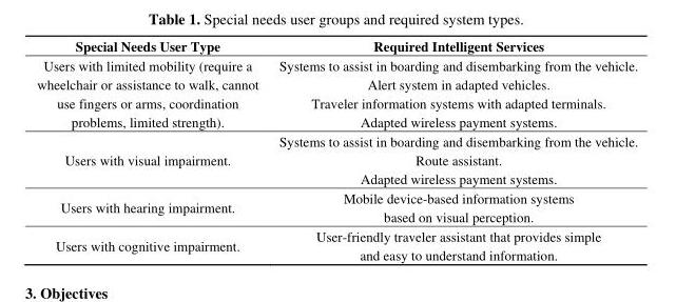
<table><thead><tr><td>Special Needs User Type</td><td>Required Intelligent Services</td></tr></thead><tbody><tr><td rowspan="4">Users with limited mobility (require a wheelchair or assistance to walk, cannot use fingers or arms, coordination problems, limited strength).</td><td>Systems to assist in boarding and disembarking from the vehicle.</td></tr><tr><td>Alert system in adapted vehicles.</td></tr><tr><td>Traveler information systems with adapted terminals.</td></tr><tr><td>Adapted wireless payment systems.</td></tr><tr><td rowspan="3">Users with visual impairment.</td><td>Systems to assist in boarding and disembarking from the vehicle.</td></tr><tr><td>Route assistant.</td></tr><tr><td>Adapted wireless payment systems.</td></tr><tr><td>Users with hearing impairment.</td><td>Mobile device-based information systems based on visual perception.</td></tr><tr><td>Users with cognitive impairment.</td><td>User-friendly traveler assistant that provides simple and easy to understand information.</td></tr></tbody></table>